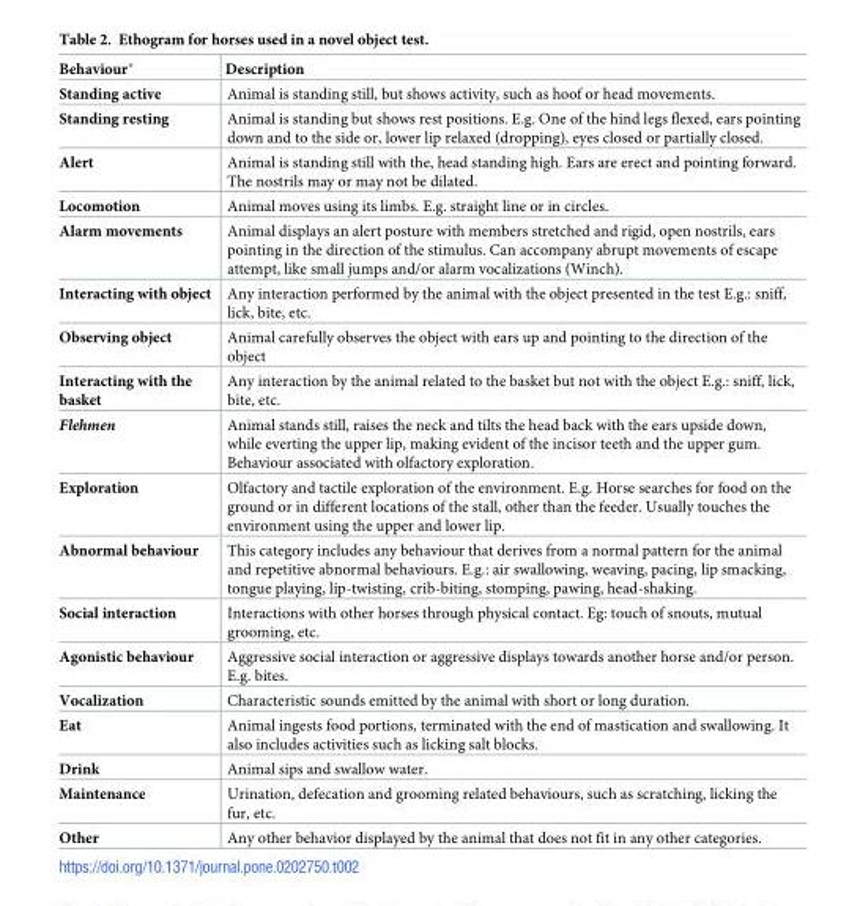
<table><thead><tr><td>Behaviour*</td><td>Description</td></tr></thead><tbody><tr><td>Standing active</td><td>Animal is standing still, but shows activity, such as hoof or head movements.</td></tr><tr><td>Standing resting</td><td>Animal is standing but shows rest positions. E.g. One of the hind legs flexed, ears pointing down and to the side or, lower lip relaxed (dropping), eyes closed or partially closed.</td></tr><tr><td>Alert</td><td>Animal is standing still with the, head standing high. Ears are erect and pointing forward. The nostrils may or may not be dilated.</td></tr><tr><td>Locomotion</td><td>Animal moves using its limbs. E.g. straight line or in circles.</td></tr><tr><td>Alarm movements</td><td>Animal displays an alert posture with members stretched and rigid, open nostrils, ears pointing in the direction of the stimulus. Can accompany abrupt movements of escape attempt, like small jumps and/or alarm vocalizations (Winch).</td></tr><tr><td>Interacting with object</td><td>Any interaction performed by the animal with the object presented in the test E.g.: sniff, lick, bite, etc.</td></tr><tr><td>Observing object</td><td>Animal carefully observes the object with ears up and pointing to the direction of the object</td></tr><tr><td>Interacting with the basket</td><td>Any interaction by the animal related to the basket but not with the object E.g.: sniff, lick, bite, etc.</td></tr><tr><td>Flehmen</td><td>Animal stands still, raises the neck and tilts the head back with the ears upside down, while everting the upper lip, making evident of the incisor teeth and the upper gum. Behaviour associated with olfactory exploration.</td></tr><tr><td>Exploration</td><td>Olfactory and tactile exploration of the environment. E.g. Horse searches for food on the ground or in different locations of the stall, other than the feeder. Usually touches the environment using the upper and lower lip.</td></tr><tr><td>Abnormal behaviour</td><td>This category includes any behaviour that derives from a normal pattern for the animal and repetitive abnormal behaviours. E.g.: air swallowing, weaving, pacing, lip smacking, tongue playing, lip-twisting, crib-biting, stomping, pawing, head-shaking.</td></tr><tr><td>Social interaction</td><td>Interactions with other horses through physical contact. Eg: touch of snouts, mutual grooming, etc.</td></tr><tr><td>Agonistic behaviour</td><td>Aggressive social interaction or aggressive displays towards another horse and/or person. E.g. bites.</td></tr><tr><td>Vocalization</td><td>Characteristic sounds emitted by the animal with short or long duration.</td></tr><tr><td>Eat</td><td>Animal ingests food portions, terminated with the end of mastication and swallowing. It also includes activities such as licking salt blocks.</td></tr><tr><td>Drink</td><td>Animal sips and swallow water.</td></tr><tr><td>Maintenance</td><td>Urination, defecation and grooming related behaviours, such as scratching, licking the fur, etc.</td></tr><tr><td>Other</td><td>Any other behavior displayed by the animal that does not fit in any other categories.</td></tr></tbody></table>